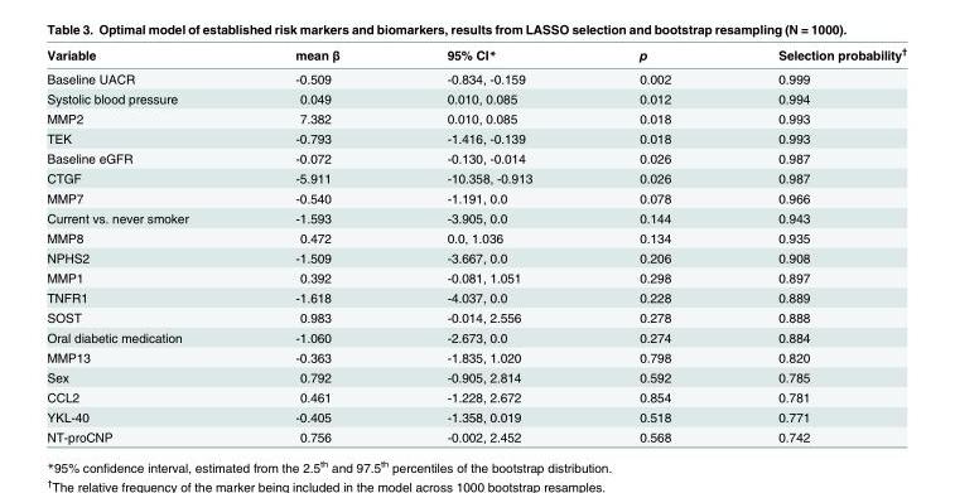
<table><thead><tr><td>Variable</td><td>mean β</td><td>95% CI*</td><td>p</td><td>Selection probability<sup>†</sup></td></tr></thead><tbody><tr><td>Baseline UACR</td><td>-0.509</td><td>-0.834, -0.159</td><td>0.002</td><td>0.999</td></tr><tr><td>Systolic blood pressure</td><td>0.049</td><td>0.010, 0.085</td><td>0.012</td><td>0.994</td></tr><tr><td>MMP2</td><td>7.382</td><td>0.010, 0.085</td><td>0.018</td><td>0.993</td></tr><tr><td>TEK</td><td>-0.793</td><td>-1.416, -0.139</td><td>0.018</td><td>0.993</td></tr><tr><td>Baseline eGFR</td><td>-0.072</td><td>-0.130, -0.014</td><td>0.026</td><td>0.987</td></tr><tr><td>CTGF</td><td>-5.911</td><td>-10.358, -0.913</td><td>0.026</td><td>0.987</td></tr><tr><td>MMP7</td><td>-0.540</td><td>-1.191, 0.0</td><td>0.078</td><td>0.966</td></tr><tr><td>Current vs. never smoker</td><td>-1.593</td><td>-3.905, 0.0</td><td>0.144</td><td>0.943</td></tr><tr><td>MMP8</td><td>0.472</td><td>0.0, 1.036</td><td>0.134</td><td>0.935</td></tr><tr><td>NPHS2</td><td>-1.509</td><td>-3.667, 0.0</td><td>0.206</td><td>0.908</td></tr><tr><td>MMP1</td><td>0.392</td><td>-0.081, 1.051</td><td>0.298</td><td>0.897</td></tr><tr><td>TNFR1</td><td>-1.618</td><td>-4.037, 0.0</td><td>0.228</td><td>0.889</td></tr><tr><td>SOST</td><td>0.983</td><td>-0.014, 2.556</td><td>0.278</td><td>0.888</td></tr><tr><td>Oral diabetic medication</td><td>-1.060</td><td>-2.673, 0.0</td><td>0.274</td><td>0.884</td></tr><tr><td>MMP13</td><td>-0.363</td><td>-1.835, 1.020</td><td>0.798</td><td>0.820</td></tr><tr><td>Sex</td><td>0.792</td><td>-0.905, 2.814</td><td>0.592</td><td>0.785</td></tr><tr><td>CCL2</td><td>0.461</td><td>-1.228, 2.672</td><td>0.854</td><td>0.781</td></tr><tr><td>YKL-40</td><td>-0.405</td><td>-1.358, 0.019</td><td>0.518</td><td>0.771</td></tr><tr><td>NT-proCNP</td><td>0.756</td><td>-0.002, 2.452</td><td>0.568</td><td>0.742</td></tr></tbody></table>